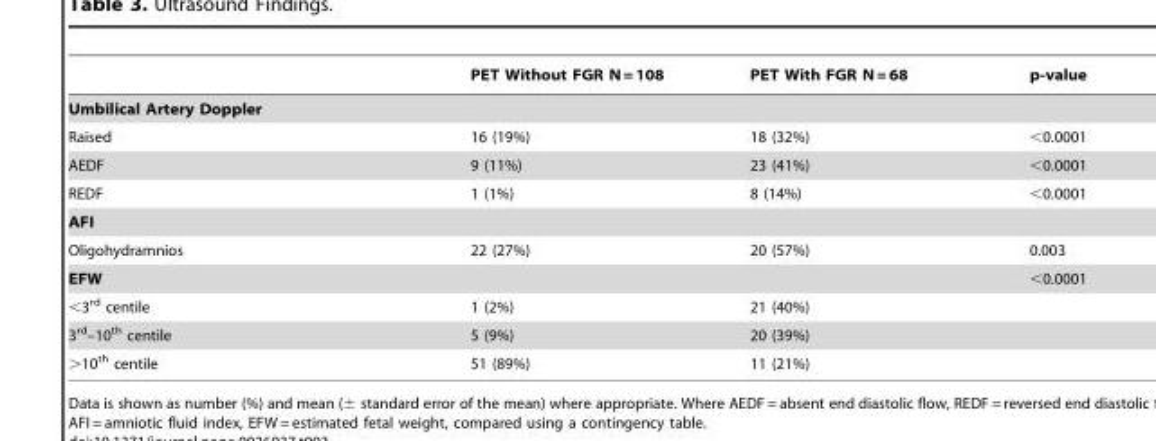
<table><thead><tr><td></td><td>PET Without FGR N = 108</td><td>PET With FGR N = 68</td><td>p-value</td></tr></thead><tbody><tr><td colspan="4">Umbilical Artery Doppler</td></tr><tr><td>Raised</td><td>16 (19%)</td><td>18 (32%)</td><td>&lt;0.0001</td></tr><tr><td>AEDF</td><td>9 (11%)</td><td>23 (41%)</td><td>&lt;0.0001</td></tr><tr><td>REDF</td><td>1 (1%)</td><td>8 (14%)</td><td>&lt;0.0001</td></tr><tr><td colspan="4">AFI</td></tr><tr><td>Oligohydramnios</td><td>22 (27%)</td><td>20 (57%)</td><td>0.003</td></tr><tr><td>EFW</td><td></td><td></td><td>&lt;0.0001</td></tr><tr><td>&lt;3<sup>rd</sup> centile</td><td>1 (2%)</td><td>21 (40%)</td><td></td></tr><tr><td>3<sup>rd</sup>–10<sup>th</sup> centile</td><td>5 (9%)</td><td>20 (39%)</td><td></td></tr><tr><td>&gt;10<sup>th</sup> centile</td><td>51 (89%)</td><td>11 (21%)</td><td></td></tr></tbody></table>